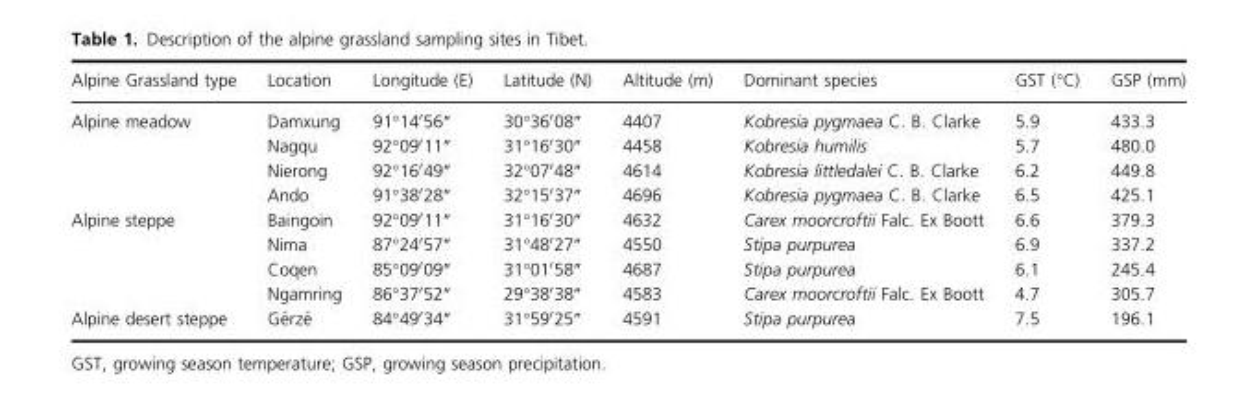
<table><thead><tr><td>Alpine Grassland type</td><td>Location</td><td>Longitude (E)</td><td>Latitude (N)</td><td>Altitude (m)</td><td>Dominant species</td><td>GST (°C)</td><td>GSP (mm)</td></tr></thead><tbody><tr><td rowspan="4">Alpine meadow</td><td>Damxung</td><td>91°14′56″</td><td>30°36′08″</td><td>4407</td><td>Kobresia pygmaea C. B. Clarke</td><td>5.9</td><td>433.3</td></tr><tr><td>Nagqu</td><td>92°09′11″</td><td>31°16′30″</td><td>4458</td><td>Kobresia humilis</td><td>5.7</td><td>480.0</td></tr><tr><td>Nierong</td><td>92°16′49″</td><td>32°07′48″</td><td>4614</td><td>Kobresia littledalei C. B. Clarke</td><td>6.2</td><td>449.8</td></tr><tr><td>Ando</td><td>91°38′28″</td><td>32°15′37″</td><td>4696</td><td>Kobresia pygmaea C. B. Clarke</td><td>6.5</td><td>425.1</td></tr><tr><td rowspan="4">Alpine steppe</td><td>Baingoin</td><td>92°09′11″</td><td>31°16′30″</td><td>4632</td><td>Carex moorcroftii Falc. Ex Boott</td><td>6.6</td><td>379.3</td></tr><tr><td>Nima</td><td>87°24′57″</td><td>31°48′27″</td><td>4550</td><td>Stipa purpurea</td><td>6.9</td><td>337.2</td></tr><tr><td>Coqen</td><td>85°09′09″</td><td>31°01′58″</td><td>4687</td><td>Stipa purpurea</td><td>6.1</td><td>245.4</td></tr><tr><td>Ngamring</td><td>86°37′52″</td><td>29°38′38″</td><td>4583</td><td>Carex moorcroftii Falc. Ex Boott</td><td>4.7</td><td>305.7</td></tr><tr><td>Alpine desert steppe</td><td>G^erz^e</td><td>84°49′34″</td><td>31°59′25″</td><td>4591</td><td>Stipa purpurea</td><td>7.5</td><td>196.1</td></tr></tbody></table>